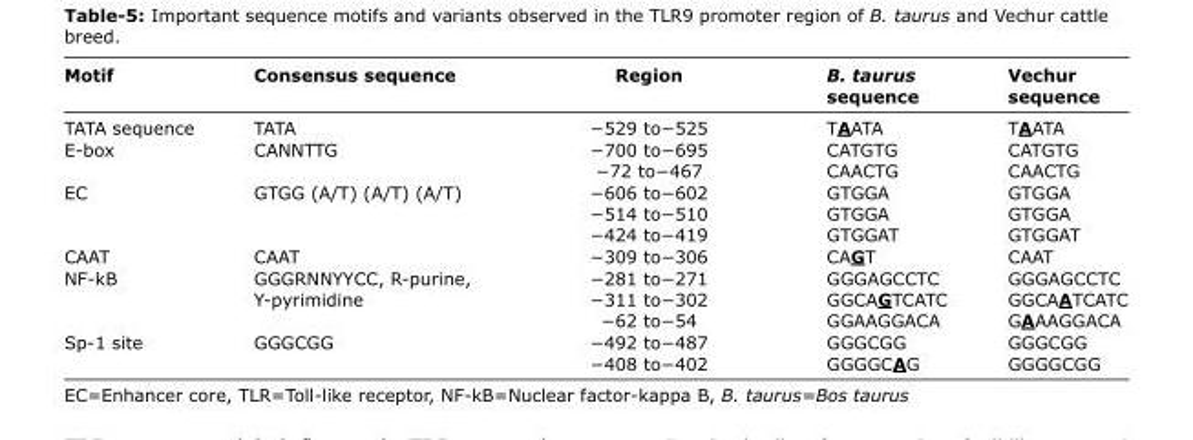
<table><thead><tr><td>Motif</td><td>Consensus sequence</td><td>Region</td><td>B. taurus sequence</td><td>Vechur sequence</td></tr></thead><tbody><tr><td>TATA sequence</td><td>TATA</td><td>−529 to−525</td><td>TAATA</td><td>TAATA</td></tr><tr><td>E-box</td><td>CANNTTG</td><td>−700 to−695 −72 to−467</td><td>CATGTG CAACTG</td><td>CATGTG CAACTG</td></tr><tr><td>EC</td><td>GTGG (A/T) (A/T) (A/T)</td><td>−606 to−602 −514 to−510 −424 to−419</td><td>GTGGA GTGGA GTGGAT</td><td>GTGGA GTGGA GTGGAT</td></tr><tr><td>CAAT</td><td>CAAT</td><td>−309 to−306</td><td>CAGT</td><td>CAAT</td></tr><tr><td>NF-kB</td><td>GGGRNNYYCC, R-purine, Y-pyrimidine</td><td>−281 to−271 −311 to−302 −62 to−54</td><td>GGGAGCCTC GGCAGTCATC GGAAGGACA</td><td>GGGAGCCTC GGCAATCATC GAAAGGACA</td></tr><tr><td>Sp-1 site</td><td>GGGCGG</td><td>−492 to−487 −408 to−402</td><td>GGGCGG GGGGCAG</td><td>GGGCGG GGGGCGG</td></tr></tbody></table>